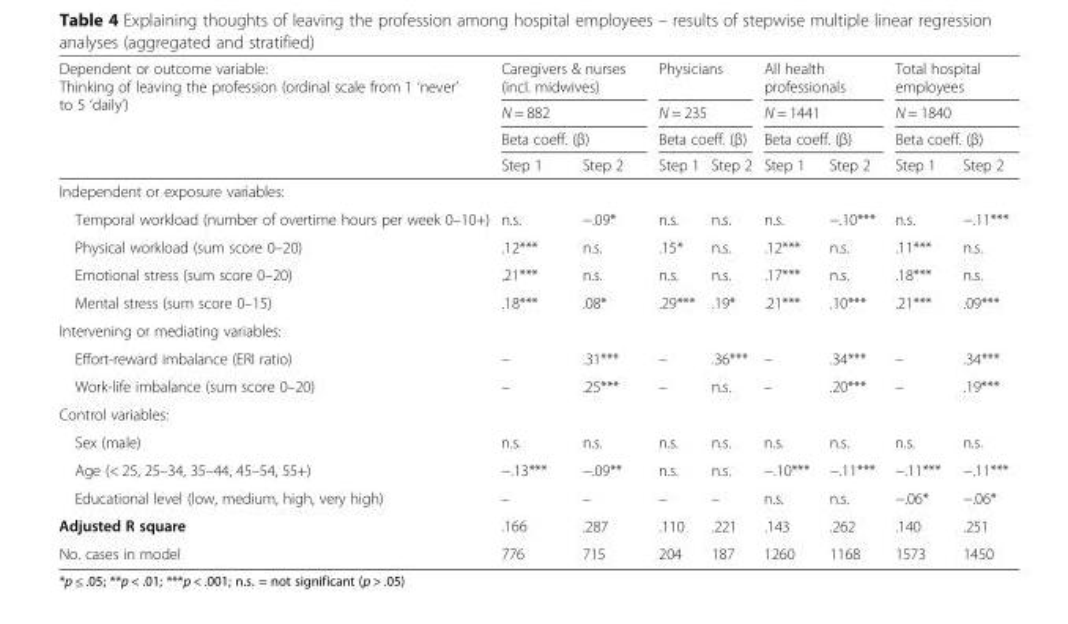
<table><thead><tr><td rowspan="4">Dependent or outcome variable: Thinking of leaving the profession (ordinal scale from 1 ‘never’ to 5 ‘daily’)</td><td rowspan="3" colspan="2">Caregivers &amp; nurses (incl. midwives) N = 882 Beta coeff. (β)</td><td rowspan="3" colspan="2">Physicians N = 235 Beta coeff. (β)</td><td rowspan="3" colspan="2">All health professionals N = 1441 Beta coeff. (β)</td><td rowspan="3" colspan="2">Total hospital employees N = 1840 Beta coeff. (β)</td></tr><tr></tr><tr></tr><tr><td>Step 1</td><td>Step 2</td><td>Step 1</td><td>Step 2</td><td>Step 1</td><td>Step 2</td><td>Step 1</td><td>Step 2</td></tr></thead><tbody><tr><td colspan="9">Independent or exposure variables:</td></tr><tr><td>Temporal workload (number of overtime hours per week 0–10+)</td><td>n.s.</td><td>−.09*</td><td>n.s.</td><td>n.s.</td><td>n.s.</td><td>−.10***</td><td>n.s.</td><td>−.11***</td></tr><tr><td>Physical workload (sum score 0–20)</td><td>.12***</td><td>n.s.</td><td>.15*</td><td>n.s.</td><td>.12***</td><td>n.s.</td><td>.11***</td><td>n.s.</td></tr><tr><td>Emotional stress (sum score 0–20)</td><td>.21***</td><td>n.s.</td><td>n.s.</td><td>n.s.</td><td>.17***</td><td>n.s.</td><td>.18***</td><td>n.s.</td></tr><tr><td>Mental stress (sum score 0–15)</td><td>.18***</td><td>.08*</td><td>.29***</td><td>.19*</td><td>.21***</td><td>.10***</td><td>.21***</td><td>.09***</td></tr><tr><td colspan="9">Intervening or mediating variables:</td></tr><tr><td>Effort-reward imbalance (ERI ratio)</td><td>–</td><td>.31***</td><td>–</td><td>.36***</td><td>–</td><td>.34***</td><td>–</td><td>.34***</td></tr><tr><td>Work-life imbalance (sum score 0–20)</td><td>–</td><td>.25***</td><td>–</td><td>n.s.</td><td>–</td><td>.20***</td><td>–</td><td>.19***</td></tr><tr><td colspan="9">Control variables:</td></tr><tr><td>Sex (male)</td><td>n.s.</td><td>n.s.</td><td>n.s.</td><td>n.s.</td><td>n.s.</td><td>n.s.</td><td>n.s.</td><td>n.s.</td></tr><tr><td>Age (&lt; 25, 25–34, 35–44, 45–54, 55+)</td><td>−.13***</td><td>−.09**</td><td>n.s.</td><td>n.s.</td><td>−.10***</td><td>−.11***</td><td>−.11***</td><td>−.11***</td></tr><tr><td>Educational level (low, medium, high, very high)</td><td>–</td><td>–</td><td>–</td><td>–</td><td>n.s.</td><td>n.s.</td><td>−.06*</td><td>−.06*</td></tr><tr><td>Adjusted R square</td><td>.166</td><td>.287</td><td>.110</td><td>.221</td><td>.143</td><td>.262</td><td>.140</td><td>.251</td></tr><tr><td>No. cases in model</td><td>776</td><td>715</td><td>204</td><td>187</td><td>1260</td><td>1168</td><td>1573</td><td>1450</td></tr></tbody></table>